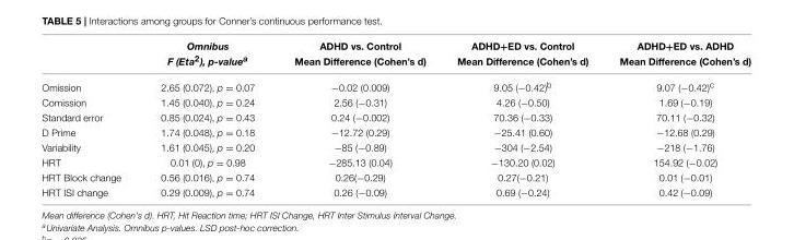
<table><thead><tr><td rowspan="2"></td><td rowspan="2">Omnibus F (Eta<sup>2</sup>), p-value<sup>a</sup></td><td rowspan="2">ADHD vs. Control Mean Difference (Cohen’s d)</td><td rowspan="2">ADHD+ED vs. Control Mean Difference (Cohen’s d)</td><td rowspan="2">ADHD+ED vs. ADHD Mean Difference (Cohen’s d)</td></tr><tr></tr></thead><tbody><tr><td>Omission</td><td>2.65 (0.072), p = 0.07</td><td>−0.02 (0.009)</td><td>9.05 (−0.42)<sup>b</sup></td><td>9.07 (−0.42)<sup>c</sup></td></tr><tr><td>Comission</td><td>1.45 (0.040), p = 0.24</td><td>2.56 (−0.31)</td><td>4.26 (−0.50)</td><td>1.69 (−0.19)</td></tr><tr><td>Standard error</td><td>0.85 (0.024), p = 0.43</td><td>0.24 (−0.002)</td><td>70.36 (−0.33)</td><td>70.11 (−0.32)</td></tr><tr><td>D Prime</td><td>1.74 (0.048), p = 0.18</td><td>−12.72 (0.29)</td><td>−25.41 (0.60)</td><td>−12.68 (0.29)</td></tr><tr><td>Variability</td><td>1.61 (0.045), p = 0.20</td><td>−85 (−0.89)</td><td>−304 (−2.54)</td><td>−218 (−1.76)</td></tr><tr><td>HRT</td><td>0.01 (0), p = 0.98</td><td>−285.13 (0.04)</td><td>−130.20 (0.02)</td><td>154.92 (−0.02)</td></tr><tr><td>HRT Block change</td><td>0.56 (0.016), p = 0.74</td><td>0.26(−0.29)</td><td>0.27(−0.21)</td><td>0.01 (−0.01)</td></tr><tr><td>HRT ISI change</td><td>0.29 (0.009), p = 0.74</td><td>0.26 (−0.09)</td><td>0.69 (−0.24)</td><td>0.42 (−0.09)</td></tr></tbody></table>